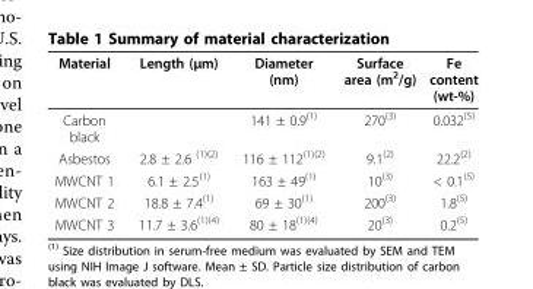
<table><thead><tr><td>Material</td><td>Length (μm)</td><td>Diameter (nm)</td><td>Surface area (m<sup>2</sup>/g)</td><td>Fe content (wt-%)</td></tr></thead><tbody><tr><td>Carbon black</td><td></td><td>141 ± 0.9<sup>(1)</sup></td><td>270<sup>(3)</sup></td><td>0.032<sup>(5)</sup></td></tr><tr><td>Asbestos</td><td>2.8 ± 2.6 <sup>(1)(2)</sup></td><td>116 ± 112<sup>(1)(2)</sup></td><td>9.1<sup>(2)</sup></td><td>22.2<sup>(2)</sup></td></tr><tr><td>MWCNT 1</td><td>6.1 ± 2.5<sup>(1)</sup></td><td>163 ± 49<sup>(1)</sup></td><td>10<sup>(3)</sup></td><td>&lt; 0.1<sup>(5)</sup></td></tr><tr><td>MWCNT 2</td><td>18.8 ± 7.4<sup>(1)</sup></td><td>69 ± 30<sup>(1)</sup></td><td>200<sup>(3)</sup></td><td>1.8<sup>(5)</sup></td></tr><tr><td>MWCNT 3</td><td>11.7 ± 3.6<sup>(1)(4)</sup></td><td>80 ± 18<sup>(1)(4)</sup></td><td>20<sup>(3)</sup></td><td>0.2<sup>(5)</sup></td></tr></tbody></table>